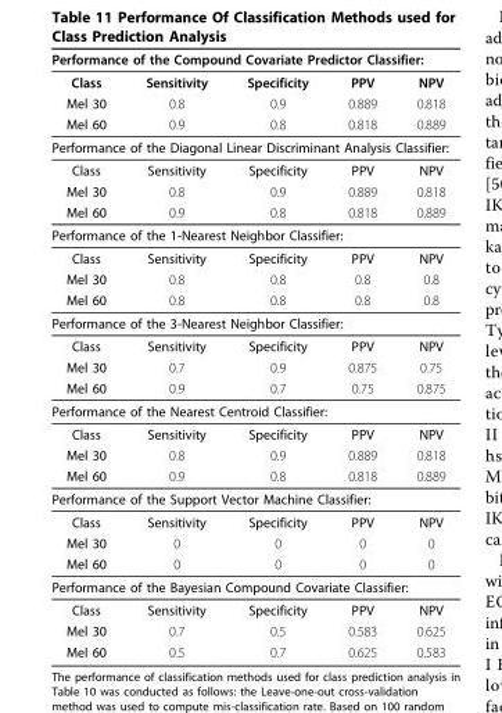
<table><thead><tr><td colspan="5">Performance of the Compound Covariate Predictor Classifier:</td></tr><tr><td>Class</td><td>Sensitivity</td><td>Specificity</td><td>PPV</td><td>NPV</td></tr></thead><tbody><tr><td>Mel 30</td><td>0.8</td><td>0.9</td><td>0.889</td><td>0.818</td></tr><tr><td>Mel 60</td><td>0.9</td><td>0.8</td><td>0.818</td><td>0.889</td></tr><tr><td colspan="5">Performance of the Diagonal Linear Discriminant Analysis Classifier:</td></tr><tr><td>Class</td><td>Sensitivity</td><td>Specificity</td><td>PPV</td><td>NPV</td></tr><tr><td>Mel 30</td><td>0.8</td><td>0.9</td><td>0.889</td><td>0.818</td></tr><tr><td>Mel 60</td><td>0.9</td><td>0.8</td><td>0.818</td><td>0.889</td></tr><tr><td colspan="5">Performance of the 1-Nearest Neighbor Classifier:</td></tr><tr><td>Class</td><td>Sensitivity</td><td>Specificity</td><td>PPV</td><td>NPV</td></tr><tr><td>Mel 30</td><td>0.8</td><td>0.8</td><td>0.8</td><td>0.8</td></tr><tr><td>Mel 60</td><td>0.8</td><td>0.8</td><td>0.8</td><td>0.8</td></tr><tr><td colspan="5">Performance of the 3-Nearest Neighbor Classifier:</td></tr><tr><td>Class</td><td>Sensitivity</td><td>Specificity</td><td>PPV</td><td>NPV</td></tr><tr><td>Mel 30</td><td>0.7</td><td>0.9</td><td>0.875</td><td>0.75</td></tr><tr><td>Mel 60</td><td>0.9</td><td>0.7</td><td>0.75</td><td>0.875</td></tr><tr><td colspan="5">Performance of the Nearest Centroid Classifier:</td></tr><tr><td>Class</td><td>Sensitivity</td><td>Specificity</td><td>PPV</td><td>NPV</td></tr><tr><td>Mel 30</td><td>0.8</td><td>0.9</td><td>0.889</td><td>0.818</td></tr><tr><td>Mel 60</td><td>0.9</td><td>0.8</td><td>0.818</td><td>0.889</td></tr><tr><td colspan="5">Performance of the Support Vector Machine Classifier:</td></tr><tr><td>Class</td><td>Sensitivity</td><td>Specificity</td><td>PPV</td><td>NPV</td></tr><tr><td>Mel 30</td><td>0</td><td>0</td><td>0</td><td>0</td></tr><tr><td>Mel 60</td><td>0</td><td>0</td><td>0</td><td>0</td></tr><tr><td colspan="5">Performance of the Bayesian Compound Covariate Classifier:</td></tr><tr><td>Class</td><td>Sensitivity</td><td>Specificity</td><td>PPV</td><td>NPV</td></tr><tr><td>Mel 30</td><td>0.7</td><td>0.5</td><td>0.583</td><td>0.625</td></tr><tr><td>Mel 60</td><td>0.5</td><td>0.7</td><td>0.625</td><td>0.583</td></tr></tbody></table>